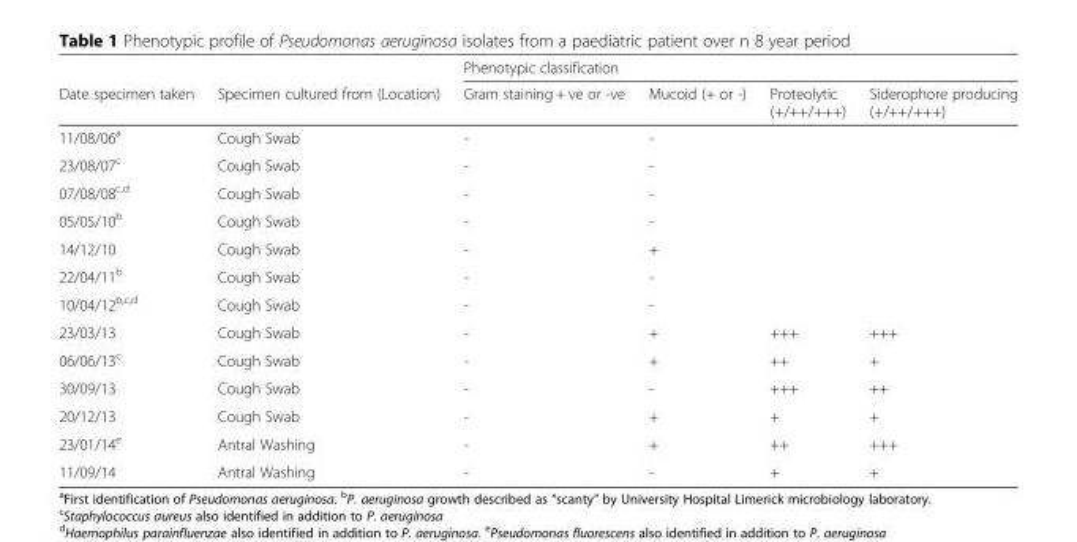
<table><thead><tr><td rowspan="2">Date specimen taken</td><td rowspan="2">Specimen cultured from (Location)</td><td colspan="4">Phenotypic classification</td></tr><tr><td>Gram staining + ve or -ve</td><td>Mucoid (+ or -)</td><td>Proteolytic (+/++/+++)</td><td>Siderophore producing (+/++/+++)</td></tr></thead><tbody><tr><td>11/08/06<sup>a</sup></td><td>Cough Swab</td><td>-</td><td>-</td><td></td><td></td></tr><tr><td>23/08/07<sup>c</sup></td><td>Cough Swab</td><td>-</td><td>-</td><td></td><td></td></tr><tr><td>07/08/08<sup>c,d</sup></td><td>Cough Swab</td><td>-</td><td>-</td><td></td><td></td></tr><tr><td>05/05/10<sup>b</sup></td><td>Cough Swab</td><td>-</td><td>-</td><td></td><td></td></tr><tr><td>14/12/10</td><td>Cough Swab</td><td>-</td><td>+</td><td></td><td></td></tr><tr><td>22/04/11<sup>b</sup></td><td>Cough Swab</td><td>-</td><td>-</td><td></td><td></td></tr><tr><td>10/04/12<sup>b,c,d</sup></td><td>Cough Swab</td><td>-</td><td>-</td><td></td><td></td></tr><tr><td>23/03/13</td><td>Cough Swab</td><td>-</td><td>+</td><td>+++</td><td>+++</td></tr><tr><td>06/06/13<sup>c</sup></td><td>Cough Swab</td><td>-</td><td>+</td><td>++</td><td>+</td></tr><tr><td>30/09/13</td><td>Cough Swab</td><td>-</td><td>-</td><td>+++</td><td>++</td></tr><tr><td>20/12/13</td><td>Cough Swab</td><td>-</td><td>+</td><td>+</td><td>+</td></tr><tr><td>23/01/14<sup>e</sup></td><td>Antral Washing</td><td>-</td><td>+</td><td>++</td><td>+++</td></tr><tr><td>11/09/14</td><td>Antral Washing</td><td>-</td><td>-</td><td>+</td><td>+</td></tr></tbody></table>